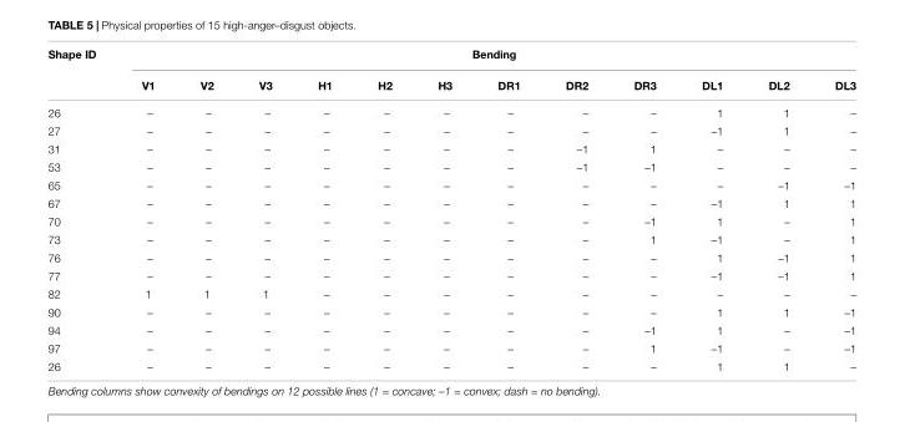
<table><thead><tr><td rowspan="2">Shape ID</td><td colspan="12">Bending</td></tr><tr><td>V1</td><td>V2</td><td>V3</td><td>H1</td><td>H2</td><td>H3</td><td>DR1</td><td>DR2</td><td>DR3</td><td>DL1</td><td>DL2</td><td>DL3</td></tr></thead><tbody><tr><td>26</td><td>–</td><td>–</td><td>–</td><td>–</td><td>–</td><td>–</td><td>–</td><td>–</td><td>–</td><td>1</td><td>1</td><td>–</td></tr><tr><td>27</td><td>–</td><td>–</td><td>–</td><td>–</td><td>–</td><td>–</td><td>–</td><td>–</td><td>–</td><td>–1</td><td>1</td><td>–</td></tr><tr><td>31</td><td>–</td><td>–</td><td>–</td><td>–</td><td>–</td><td>–</td><td>–</td><td>–1</td><td>1</td><td>–</td><td>–</td><td>–</td></tr><tr><td>53</td><td>–</td><td>–</td><td>–</td><td>–</td><td>–</td><td>–</td><td>–</td><td>–1</td><td>–1</td><td>–</td><td>–</td><td>–</td></tr><tr><td>65</td><td>–</td><td>–</td><td>–</td><td>–</td><td>–</td><td>–</td><td>–</td><td>–</td><td>–</td><td>–</td><td>–1</td><td>–1</td></tr><tr><td>67</td><td>–</td><td>–</td><td>–</td><td>–</td><td>–</td><td>–</td><td>–</td><td>–</td><td>–</td><td>–1</td><td>1</td><td>1</td></tr><tr><td>70</td><td>–</td><td>–</td><td>–</td><td>–</td><td>–</td><td>–</td><td>–</td><td>–</td><td>–1</td><td>1</td><td>–</td><td>1</td></tr><tr><td>73</td><td>–</td><td>–</td><td>–</td><td>–</td><td>–</td><td>–</td><td>–</td><td>–</td><td>1</td><td>–1</td><td>–</td><td>1</td></tr><tr><td>76</td><td>–</td><td>–</td><td>–</td><td>–</td><td>–</td><td>–</td><td>–</td><td>–</td><td>–</td><td>1</td><td>–1</td><td>1</td></tr><tr><td>77</td><td>–</td><td>–</td><td>–</td><td>–</td><td>–</td><td>–</td><td>–</td><td>–</td><td>–</td><td>–1</td><td>–1</td><td>1</td></tr><tr><td>82</td><td>1</td><td>1</td><td>1</td><td>–</td><td>–</td><td>–</td><td>–</td><td>–</td><td>–</td><td>–</td><td>–</td><td>–</td></tr><tr><td>90</td><td>–</td><td>–</td><td>–</td><td>–</td><td>–</td><td>–</td><td>–</td><td>–</td><td>–</td><td>1</td><td>1</td><td>–1</td></tr><tr><td>94</td><td>–</td><td>–</td><td>–</td><td>–</td><td>–</td><td>–</td><td>–</td><td>–</td><td>–1</td><td>1</td><td>–</td><td>–1</td></tr><tr><td>97</td><td>–</td><td>–</td><td>–</td><td>–</td><td>–</td><td>–</td><td>–</td><td>–</td><td>1</td><td>–1</td><td>–</td><td>–1</td></tr><tr><td>26</td><td>–</td><td>–</td><td>–</td><td>–</td><td>–</td><td>–</td><td>–</td><td>–</td><td>–</td><td>1</td><td>1</td><td>–</td></tr></tbody></table>